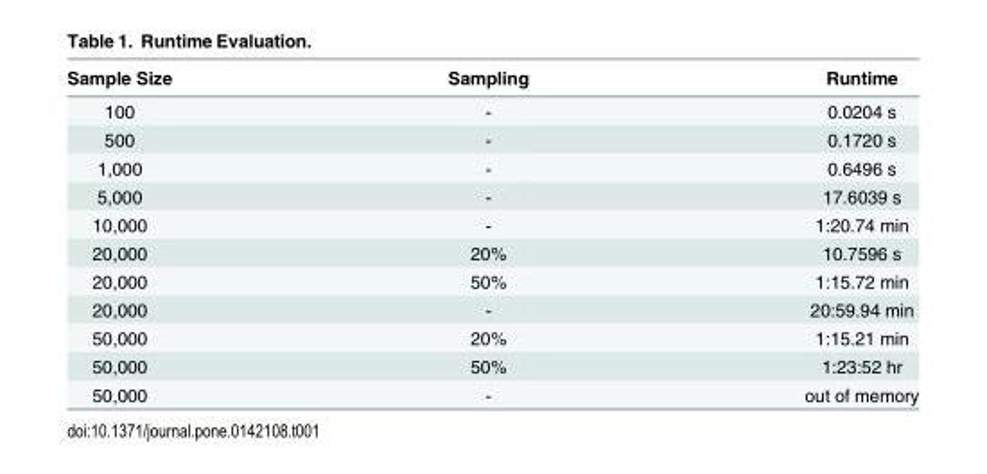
<table><thead><tr><td>Sample Size</td><td>Sampling</td><td>Runtime</td></tr></thead><tbody><tr><td>100</td><td>-</td><td>0.0204 s</td></tr><tr><td>500</td><td>-</td><td>0.1720 s</td></tr><tr><td>1,000</td><td>-</td><td>0.6496 s</td></tr><tr><td>5,000</td><td>-</td><td>17.6039 s</td></tr><tr><td>10,000</td><td>-</td><td>1:20.74 min</td></tr><tr><td>20,000</td><td>20%</td><td>10.7596 s</td></tr><tr><td>20,000</td><td>50%</td><td>1:15.72 min</td></tr><tr><td>20,000</td><td>-</td><td>20:59.94 min</td></tr><tr><td>50,000</td><td>20%</td><td>1:15.21 min</td></tr><tr><td>50,000</td><td>50%</td><td>1:23:52 hr</td></tr><tr><td>50,000</td><td>-</td><td>out of memory</td></tr></tbody></table>